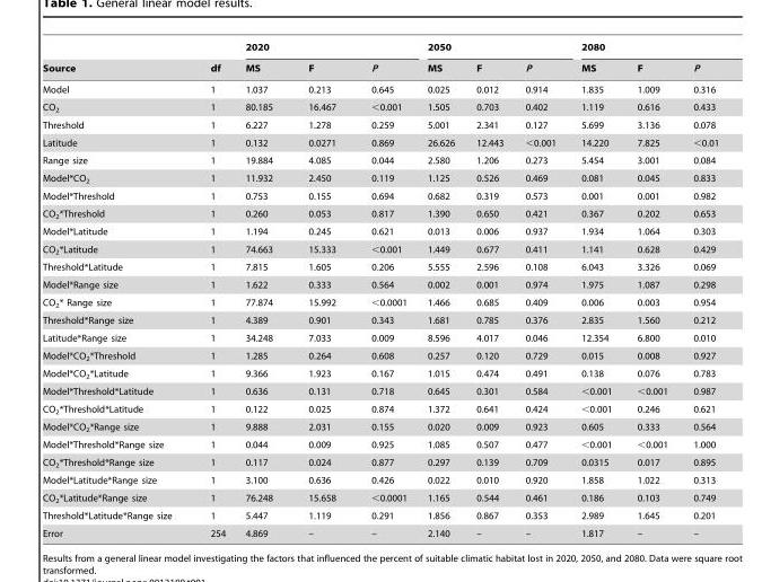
<table><thead><tr><td rowspan="2">Source</td><td rowspan="2">df</td><td colspan="3">2020</td><td colspan="3">2050</td><td colspan="3">2080</td></tr><tr><td>MS</td><td>F</td><td>P</td><td>MS</td><td>F</td><td>P</td><td>MS</td><td>F</td><td>P</td></tr></thead><tbody><tr><td>Model</td><td>1</td><td>1.037</td><td>0.213</td><td>0.645</td><td>0.025</td><td>0.012</td><td>0.914</td><td>1.835</td><td>1.009</td><td>0.316</td></tr><tr><td>CO<sub>2</sub></td><td>1</td><td>80.185</td><td>16.467</td><td>&lt;0.001</td><td>1.505</td><td>0.703</td><td>0.402</td><td>1.119</td><td>0.616</td><td>0.433</td></tr><tr><td>Threshold</td><td>1</td><td>6.227</td><td>1.278</td><td>0.259</td><td>5.001</td><td>2.341</td><td>0.127</td><td>5.699</td><td>3.136</td><td>0.078</td></tr><tr><td>Latitude</td><td>1</td><td>0.132</td><td>0.0271</td><td>0.869</td><td>26.626</td><td>12.443</td><td>&lt;0.001</td><td>14.220</td><td>7.825</td><td>&lt;0.01</td></tr><tr><td>Range size</td><td>1</td><td>19.884</td><td>4.085</td><td>0.044</td><td>2.580</td><td>1.206</td><td>0.273</td><td>5.454</td><td>3.001</td><td>0.084</td></tr><tr><td>Model*CO<sub>2</sub></td><td>1</td><td>11.932</td><td>2.450</td><td>0.119</td><td>1.125</td><td>0.526</td><td>0.469</td><td>0.081</td><td>0.045</td><td>0.833</td></tr><tr><td>Model*Threshold</td><td>1</td><td>0.753</td><td>0.155</td><td>0.694</td><td>0.682</td><td>0.319</td><td>0.573</td><td>0.001</td><td>0.001</td><td>0.982</td></tr><tr><td>CO<sub>2</sub>*Threshold</td><td>1</td><td>0.260</td><td>0.053</td><td>0.817</td><td>1.390</td><td>0.650</td><td>0.421</td><td>0.367</td><td>0.202</td><td>0.653</td></tr><tr><td>Model*Latitude</td><td>1</td><td>1.194</td><td>0.245</td><td>0.621</td><td>0.013</td><td>0.006</td><td>0.937</td><td>1.934</td><td>1.064</td><td>0.303</td></tr><tr><td>CO<sub>2</sub>*Latitude</td><td>1</td><td>74.663</td><td>15.333</td><td>&lt;0.001</td><td>1.449</td><td>0.677</td><td>0.411</td><td>1.141</td><td>0.628</td><td>0.429</td></tr><tr><td>Threshold*Latitude</td><td>1</td><td>7.815</td><td>1.605</td><td>0.206</td><td>5.555</td><td>2.596</td><td>0.108</td><td>6.043</td><td>3.326</td><td>0.069</td></tr><tr><td>Model*Range size</td><td>1</td><td>1.622</td><td>0.333</td><td>0.564</td><td>0.002</td><td>0.001</td><td>0.974</td><td>1.975</td><td>1.087</td><td>0.298</td></tr><tr><td>CO<sub>2</sub>* Range size</td><td>1</td><td>77.874</td><td>15.992</td><td>&lt;0.0001</td><td>1.466</td><td>0.685</td><td>0.409</td><td>0.006</td><td>0.003</td><td>0.954</td></tr><tr><td>Threshold*Range size</td><td>1</td><td>4.389</td><td>0.901</td><td>0.343</td><td>1.681</td><td>0.785</td><td>0.376</td><td>2.835</td><td>1.560</td><td>0.212</td></tr><tr><td>Latitude*Range size</td><td>1</td><td>34.248</td><td>7.033</td><td>0.009</td><td>8.596</td><td>4.017</td><td>0.046</td><td>12.354</td><td>6.800</td><td>0.010</td></tr><tr><td>Model*CO<sub>2</sub>*Threshold</td><td>1</td><td>1.285</td><td>0.264</td><td>0.608</td><td>0.257</td><td>0.120</td><td>0.729</td><td>0.015</td><td>0.008</td><td>0.927</td></tr><tr><td>Model*CO<sub>2</sub>*Latitude</td><td>1</td><td>9.366</td><td>1.923</td><td>0.167</td><td>1.015</td><td>0.474</td><td>0.491</td><td>0.138</td><td>0.076</td><td>0.783</td></tr><tr><td>Model*Threshold*Latitude</td><td>1</td><td>0.636</td><td>0.131</td><td>0.718</td><td>0.645</td><td>0.301</td><td>0.584</td><td>&lt;0.001</td><td>&lt;0.001</td><td>0.987</td></tr><tr><td>CO<sub>2</sub>*Threshold*Latitude</td><td>1</td><td>0.122</td><td>0.025</td><td>0.874</td><td>1.372</td><td>0.641</td><td>0.424</td><td>&lt;0.001</td><td>0.246</td><td>0.621</td></tr><tr><td>Model*CO<sub>2</sub>*Range size</td><td>1</td><td>9.888</td><td>2.031</td><td>0.155</td><td>0.020</td><td>0.009</td><td>0.923</td><td>0.605</td><td>0.333</td><td>0.564</td></tr><tr><td>Model*Threshold*Range size</td><td>1</td><td>0.044</td><td>0.009</td><td>0.925</td><td>1.085</td><td>0.507</td><td>0.477</td><td>&lt;0.001</td><td>&lt;0.001</td><td>1.000</td></tr><tr><td>CO<sub>2</sub>*Threshold*Range size</td><td>1</td><td>0.117</td><td>0.024</td><td>0.877</td><td>0.297</td><td>0.139</td><td>0.709</td><td>0.0315</td><td>0.017</td><td>0.895</td></tr><tr><td>Model*Latitude*Range size</td><td>1</td><td>3.100</td><td>0.636</td><td>0.426</td><td>0.022</td><td>0.010</td><td>0.920</td><td>1.858</td><td>1.022</td><td>0.313</td></tr><tr><td>CO<sub>2</sub>*Latitude*Range size</td><td>1</td><td>76.248</td><td>15.658</td><td>&lt;0.0001</td><td>1.165</td><td>0.544</td><td>0.461</td><td>0.186</td><td>0.103</td><td>0.749</td></tr><tr><td>Threshold*Latitude*Range size</td><td>1</td><td>5.447</td><td>1.119</td><td>0.291</td><td>1.856</td><td>0.867</td><td>0.353</td><td>2.989</td><td>1.645</td><td>0.201</td></tr><tr><td>Error</td><td>254</td><td>4.869</td><td>–</td><td>–</td><td>2.140</td><td>–</td><td>–</td><td>1.817</td><td>–</td><td>–</td></tr></tbody></table>